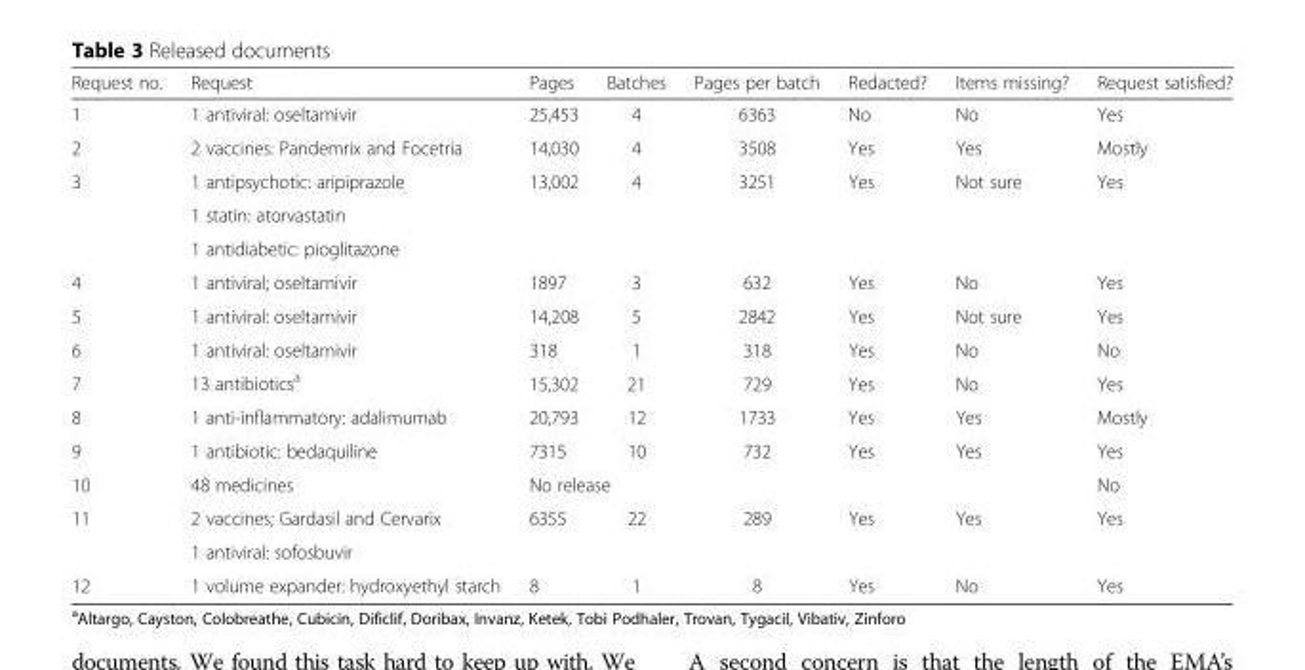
<table><thead><tr><td>Request no.</td><td>Request</td><td>Pages</td><td>Batches</td><td>Pages per batch</td><td>Redacted?</td><td>Items missing?</td><td>Request satisfied?</td></tr></thead><tbody><tr><td>1</td><td>1 antiviral: oseltamivir</td><td>25,453</td><td>4</td><td>6363</td><td>No</td><td>No</td><td>Yes</td></tr><tr><td>2</td><td>2 vaccines: Pandemrix and Focetria</td><td>14,030</td><td>4</td><td>3508</td><td>Yes</td><td>Yes</td><td>Mostly</td></tr><tr><td rowspan="3">3</td><td>1 antipsychotic: aripiprazole</td><td rowspan="3">13,002</td><td rowspan="3">4</td><td rowspan="3">3251</td><td rowspan="3">Yes</td><td rowspan="3">Not sure</td><td rowspan="3">Yes</td></tr><tr><td>1 statin: atorvastatin</td></tr><tr><td>1 antidiabetic: pioglitazone</td></tr><tr><td>4</td><td>1 antiviral; oseltamivir</td><td>1897</td><td>3</td><td>632</td><td>Yes</td><td>No</td><td>Yes</td></tr><tr><td>5</td><td>1 antiviral: oseltamivir</td><td>14,208</td><td>5</td><td>2842</td><td>Yes</td><td>Not sure</td><td>Yes</td></tr><tr><td>6</td><td>1 antiviral: oseltamivir</td><td>318</td><td>1</td><td>318</td><td>Yes</td><td>No</td><td>No</td></tr><tr><td>7</td><td>13 antibiotics<sup>a</sup></td><td>15,302</td><td>21</td><td>729</td><td>Yes</td><td>No</td><td>Yes</td></tr><tr><td>8</td><td>1 anti-inflammatory: adalimumab</td><td>20,793</td><td>12</td><td>1733</td><td>Yes</td><td>Yes</td><td>Mostly</td></tr><tr><td>9</td><td>1 antibiotic: bedaquiline</td><td>7315</td><td>10</td><td>732</td><td>Yes</td><td>Yes</td><td>Yes</td></tr><tr><td>10</td><td>48 medicines</td><td colspan="5">No release</td><td>No</td></tr><tr><td rowspan="2">11</td><td>2 vaccines; Gardasil and Cervarix</td><td rowspan="2">6355</td><td rowspan="2">22</td><td rowspan="2">289</td><td rowspan="2">Yes</td><td rowspan="2">Yes</td><td rowspan="2">Yes</td></tr><tr><td>1 antiviral: sofosbuvir</td></tr><tr><td>12</td><td>1 volume expander: hydroxyethyl starch</td><td>8</td><td>1</td><td>8</td><td>Yes</td><td>No</td><td>Yes</td></tr></tbody></table>